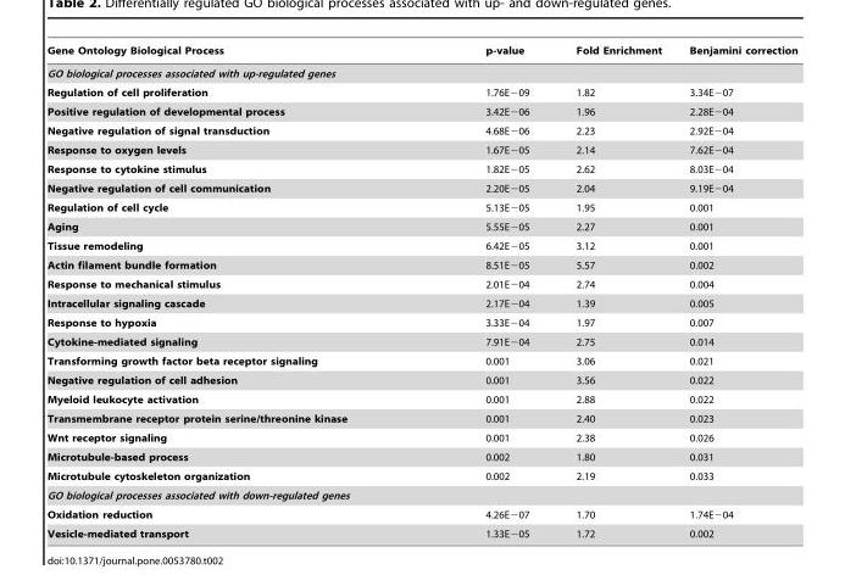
<table><thead><tr><td>Gene Ontology Biological Process</td><td>p-value</td><td>Fold Enrichment</td><td>Benjamini correction</td></tr></thead><tbody><tr><td colspan="4">GO biological processes associated with up-regulated genes</td></tr><tr><td>Regulation of cell proliferation</td><td>1.76E−09</td><td>1.82</td><td>3.34E−07</td></tr><tr><td>Positive regulation of developmental process</td><td>3.42E−06</td><td>1.96</td><td>2.28E−04</td></tr><tr><td>Negative regulation of signal transduction</td><td>4.68E−06</td><td>2.23</td><td>2.92E−04</td></tr><tr><td>Response to oxygen levels</td><td>1.67E−05</td><td>2.14</td><td>7.62E−04</td></tr><tr><td>Response to cytokine stimulus</td><td>1.82E−05</td><td>2.62</td><td>8.03E−04</td></tr><tr><td>Negative regulation of cell communication</td><td>2.20E−05</td><td>2.04</td><td>9.19E−04</td></tr><tr><td>Regulation of cell cycle</td><td>5.13E−05</td><td>1.95</td><td>0.001</td></tr><tr><td>Aging</td><td>5.55E−05</td><td>2.27</td><td>0.001</td></tr><tr><td>Tissue remodeling</td><td>6.42E−05</td><td>3.12</td><td>0.001</td></tr><tr><td>Actin filament bundle formation</td><td>8.51E−05</td><td>5.57</td><td>0.002</td></tr><tr><td>Response to mechanical stimulus</td><td>2.01E−04</td><td>2.74</td><td>0.004</td></tr><tr><td>Intracellular signaling cascade</td><td>2.17E−04</td><td>1.39</td><td>0.005</td></tr><tr><td>Response to hypoxia</td><td>3.33E−04</td><td>1.97</td><td>0.007</td></tr><tr><td>Cytokine-mediated signaling</td><td>7.91E−04</td><td>2.75</td><td>0.014</td></tr><tr><td>Transforming growth factor beta receptor signaling</td><td>0.001</td><td>3.06</td><td>0.021</td></tr><tr><td>Negative regulation of cell adhesion</td><td>0.001</td><td>3.56</td><td>0.022</td></tr><tr><td>Myeloid leukocyte activation</td><td>0.001</td><td>2.88</td><td>0.022</td></tr><tr><td>Transmembrane receptor protein serine/threonine kinase</td><td>0.001</td><td>2.40</td><td>0.023</td></tr><tr><td>Wnt receptor signaling</td><td>0.001</td><td>2.38</td><td>0.026</td></tr><tr><td>Microtubule-based process</td><td>0.002</td><td>1.80</td><td>0.031</td></tr><tr><td>Microtubule cytoskeleton organization</td><td>0.002</td><td>2.19</td><td>0.033</td></tr><tr><td colspan="4">GO biological processes associated with down-regulated genes</td></tr><tr><td>Oxidation reduction</td><td>4.26E−07</td><td>1.70</td><td>1.74E−04</td></tr><tr><td>Vesicle-mediated transport</td><td>1.33E−05</td><td>1.72</td><td>0.002</td></tr></tbody></table>